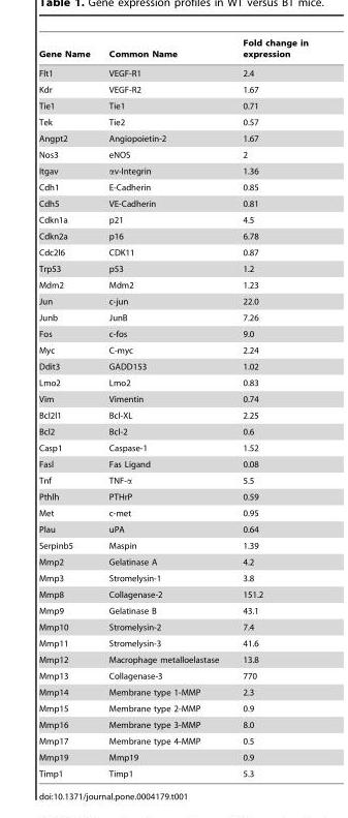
<table><thead><tr><td>Gene Name</td><td>Common Name</td><td>Fold change in expression</td></tr></thead><tbody><tr><td>Flt1</td><td>VEGF-R1</td><td>2.4</td></tr><tr><td>Kdr</td><td>VEGF-R2</td><td>1.67</td></tr><tr><td>Tie1</td><td>Tie1</td><td>0.71</td></tr><tr><td>Tek</td><td>Tie2</td><td>0.57</td></tr><tr><td>Angpt2</td><td>Angiopoietin-2</td><td>1.67</td></tr><tr><td>Nos3</td><td>eNOS</td><td>2</td></tr><tr><td>Itgav</td><td>αv-Integrin</td><td>1.36</td></tr><tr><td>Cdh1</td><td>E-Cadherin</td><td>0.85</td></tr><tr><td>Cdh5</td><td>VE-Cadherin</td><td>0.81</td></tr><tr><td>Cdkn1a</td><td>p21</td><td>4.5</td></tr><tr><td>Cdkn2a</td><td>p16</td><td>6.78</td></tr><tr><td>Cdc2l6</td><td>CDK11</td><td>0.87</td></tr><tr><td>Trp53</td><td>p53</td><td>1.2</td></tr><tr><td>Mdm2</td><td>Mdm2</td><td>1.23</td></tr><tr><td>Jun</td><td>c-jun</td><td>22.0</td></tr><tr><td>Junb</td><td>JunB</td><td>7.26</td></tr><tr><td>Fos</td><td>c-fos</td><td>9.0</td></tr><tr><td>Myc</td><td>C-myc</td><td>2.24</td></tr><tr><td>Ddit3</td><td>GADD153</td><td>1.02</td></tr><tr><td>Lmo2</td><td>Lmo2</td><td>0.83</td></tr><tr><td>Vim</td><td>Vimentin</td><td>0.74</td></tr><tr><td>Bcl2l1</td><td>Bcl-XL</td><td>2.25</td></tr><tr><td>Bcl2</td><td>Bcl-2</td><td>0.6</td></tr><tr><td>Casp1</td><td>Caspase-1</td><td>1.52</td></tr><tr><td>Fasl</td><td>Fas Ligand</td><td>0.08</td></tr><tr><td>Tnf</td><td>TNF-α</td><td>5.5</td></tr><tr><td>Pthlh</td><td>PTHrP</td><td>0.59</td></tr><tr><td>Met</td><td>c-met</td><td>0.95</td></tr><tr><td>Plau</td><td>uPA</td><td>0.64</td></tr><tr><td>Serpinb5</td><td>Maspin</td><td>1.39</td></tr><tr><td>Mmp2</td><td>Gelatinase A</td><td>4.2</td></tr><tr><td>Mmp3</td><td>Stromelysin-1</td><td>3.8</td></tr><tr><td>Mmp8</td><td>Collagenase-2</td><td>151.2</td></tr><tr><td>Mmp9</td><td>Gelatinase B</td><td>43.1</td></tr><tr><td>Mmp10</td><td>Stromelysin-2</td><td>7.4</td></tr><tr><td>Mmp11</td><td>Stromelysin-3</td><td>41.6</td></tr><tr><td>Mmp12</td><td>Macrophage metalloelastase</td><td>13.8</td></tr><tr><td>Mmp13</td><td>Collagenase-3</td><td>770</td></tr><tr><td>Mmp14</td><td>Membrane type 1-MMP</td><td>2.3</td></tr><tr><td>Mmp15</td><td>Membrane type 2-MMP</td><td>0.9</td></tr><tr><td>Mmp16</td><td>Membrane type 3-MMP</td><td>8.0</td></tr><tr><td>Mmp17</td><td>Membrane type 4-MMP</td><td>0.5</td></tr><tr><td>Mmp19</td><td>Mmp19</td><td>0.9</td></tr><tr><td>Timp1</td><td>Timp1</td><td>5.3</td></tr></tbody></table>